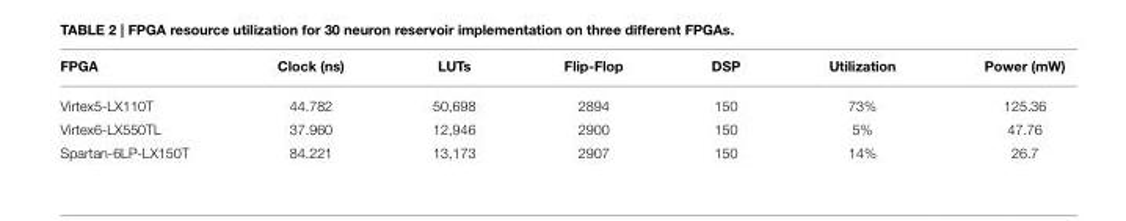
<table><thead><tr><td>FPGA</td><td>Clock (ns)</td><td>LUTs</td><td>Flip-Flop</td><td>DSP</td><td>Utilization</td><td>Power (mW)</td></tr></thead><tbody><tr><td>Virtex5-LX110T</td><td>44.782</td><td>50,698</td><td>2894</td><td>150</td><td>73%</td><td>125.36</td></tr><tr><td>Virtex6-LX550TL</td><td>37.960</td><td>12,946</td><td>2900</td><td>150</td><td>5%</td><td>47.76</td></tr><tr><td>Spartan-6LP-LX150T</td><td>84.221</td><td>13,173</td><td>2907</td><td>150</td><td>14%</td><td>26.7</td></tr></tbody></table>